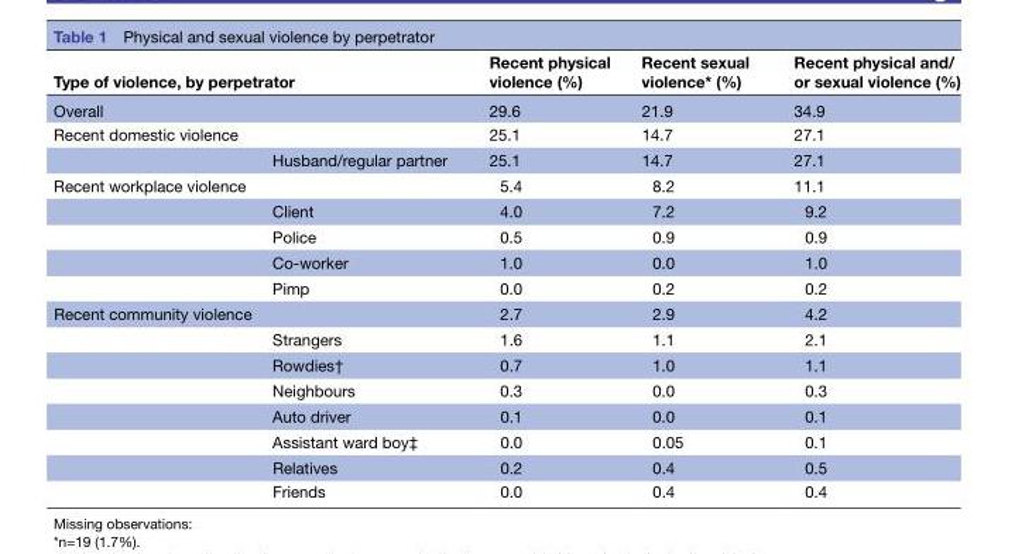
<table><thead><tr><td colspan="2">Type of violence, by perpetrator</td><td rowspan="2">Recent physical violence (%) 29.6</td><td rowspan="2">Recent sexual violence* (%) 21.9</td><td rowspan="2">Recent physical and/ or sexual violence (%) 34.9</td></tr><tr><td>Overall</td><td></td></tr></thead><tbody><tr><td rowspan="2">Recent domestic violence</td><td></td><td>25.1</td><td>14.7</td><td>27.1</td></tr><tr><td>Husband/regular partner</td><td>25.1</td><td>14.7</td><td>27.1</td></tr><tr><td rowspan="5">Recent workplace violence</td><td></td><td>5.4</td><td>8.2</td><td>11.1</td></tr><tr><td>Client</td><td>4.0</td><td>7.2</td><td>9.2</td></tr><tr><td>Police</td><td>0.5</td><td>0.9</td><td>0.9</td></tr><tr><td>Co-worker</td><td>1.0</td><td>0.0</td><td>1.0</td></tr><tr><td>Pimp</td><td>0.0</td><td>0.2</td><td>0.2</td></tr><tr><td rowspan="8">Recent community violence</td><td></td><td>2.7</td><td>2.9</td><td>4.2</td></tr><tr><td>Strangers</td><td>1.6</td><td>1.1</td><td>2.1</td></tr><tr><td>Rowdies†</td><td>0.7</td><td>1.0</td><td>1.1</td></tr><tr><td>Neighbours</td><td>0.3</td><td>0.0</td><td>0.3</td></tr><tr><td>Auto driver</td><td>0.1</td><td>0.0</td><td>0.1</td></tr><tr><td>Assistant ward boy‡</td><td>0.0</td><td>0.05</td><td>0.1</td></tr><tr><td>Relatives</td><td>0.2</td><td>0.4</td><td>0.5</td></tr><tr><td>Friends</td><td>0.0</td><td>0.4</td><td>0.4</td></tr></tbody></table>